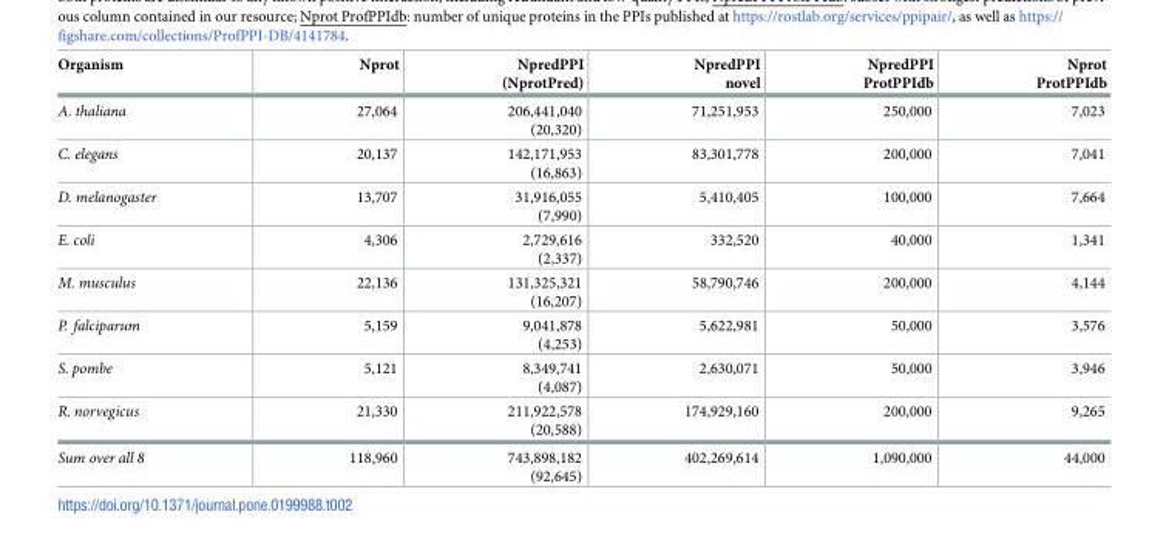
<table><thead><tr><td>Organism</td><td>Nprot</td><td>NpredPPI (NprotPred)</td><td>NpredPPI novel</td><td>NpredPPI ProtPPIdb</td><td>Nprot ProtPPIdb</td></tr></thead><tbody><tr><td>A. thaliana</td><td>27,064</td><td>206,441,040 (20,320)</td><td>71,251,953</td><td>250,000</td><td>7,023</td></tr><tr><td>C. elegans</td><td>20,137</td><td>142,171,953 (16,863)</td><td>83,301,778</td><td>200,000</td><td>7,041</td></tr><tr><td>D. melanogaster</td><td>13,707</td><td>31,916,055 (7,990)</td><td>5,410,405</td><td>100,000</td><td>7,664</td></tr><tr><td>E. coli</td><td>4,306</td><td>2,729,616 (2,337)</td><td>332,520</td><td>40,000</td><td>1,341</td></tr><tr><td>M. musculus</td><td>22,136</td><td>131,325,321 (16,207)</td><td>58,790,746</td><td>200,000</td><td>4,144</td></tr><tr><td>P. falciparum</td><td>5,159</td><td>9,041,878 (4,253)</td><td>5,622,981</td><td>50,000</td><td>3,576</td></tr><tr><td>S. pombe</td><td>5,121</td><td>8,349,741 (4,087)</td><td>2,630,071</td><td>50,000</td><td>3,946</td></tr><tr><td>R. norvegicus</td><td>21,330</td><td>211,922,578 (20,588)</td><td>174,929,160</td><td>200,000</td><td>9,265</td></tr><tr><td>Sum over all 8</td><td>118,960</td><td>743,898,182 (92,645)</td><td>402,269,614</td><td>1,090,000</td><td>44,000</td></tr></tbody></table>